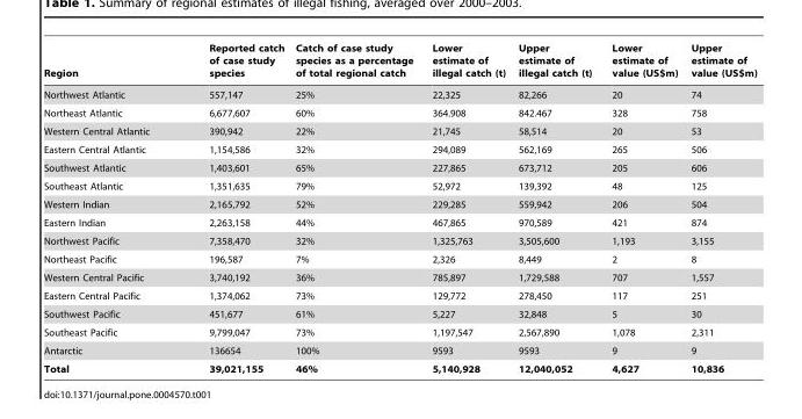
<table><thead><tr><td>Region</td><td>Reported catch of case study species</td><td>Catch of case study species as a percentage of total regional catch</td><td>Lower estimate of illegal catch (t)</td><td>Upper estimate of illegal catch (t)</td><td>Lower estimate of value (US$m)</td><td>Upper estimate of value (US$m)</td></tr></thead><tbody><tr><td>Northwest Atlantic</td><td>557,147</td><td>25%</td><td>22,325</td><td>82,266</td><td>20</td><td>74</td></tr><tr><td>Northeast Atlantic</td><td>6,677,607</td><td>60%</td><td>364.908</td><td>842.467</td><td>328</td><td>758</td></tr><tr><td>Western Central Atlantic</td><td>390,942</td><td>22%</td><td>21,745</td><td>58,514</td><td>20</td><td>53</td></tr><tr><td>Eastern Central Atlantic</td><td>1,154,586</td><td>32%</td><td>294,089</td><td>562,169</td><td>265</td><td>506</td></tr><tr><td>Southwest Atlantic</td><td>1,403,601</td><td>65%</td><td>227,865</td><td>673,712</td><td>205</td><td>606</td></tr><tr><td>Southeast Atlantic</td><td>1,351,635</td><td>79%</td><td>52,972</td><td>139,392</td><td>48</td><td>125</td></tr><tr><td>Western Indian</td><td>2,165,792</td><td>52%</td><td>229,285</td><td>559,942</td><td>206</td><td>504</td></tr><tr><td>Eastern Indian</td><td>2,263,158</td><td>44%</td><td>467,865</td><td>970,589</td><td>421</td><td>874</td></tr><tr><td>Northwest Pacific</td><td>7,358,470</td><td>32%</td><td>1,325,763</td><td>3,505,600</td><td>1,193</td><td>3,155</td></tr><tr><td>Northeast Pacific</td><td>196,587</td><td>7%</td><td>2,326</td><td>8,449</td><td>2</td><td>8</td></tr><tr><td>Western Central Pacific</td><td>3,740,192</td><td>36%</td><td>785,897</td><td>1,729,588</td><td>707</td><td>1,557</td></tr><tr><td>Eastern Central Pacific</td><td>1,374,062</td><td>73%</td><td>129,772</td><td>278,450</td><td>117</td><td>251</td></tr><tr><td>Southwest Pacific</td><td>451,677</td><td>61%</td><td>5,227</td><td>32,848</td><td>5</td><td>30</td></tr><tr><td>Southeast Pacific</td><td>9,799,047</td><td>73%</td><td>1,197,547</td><td>2,567,890</td><td>1,078</td><td>2,311</td></tr><tr><td>Antarctic</td><td>136654</td><td>100%</td><td>9593</td><td>9593</td><td>9</td><td>9</td></tr><tr><td>Total</td><td>39,021,155</td><td>46%</td><td>5,140,928</td><td>12,040,052</td><td>4,627</td><td>10,836</td></tr></tbody></table>